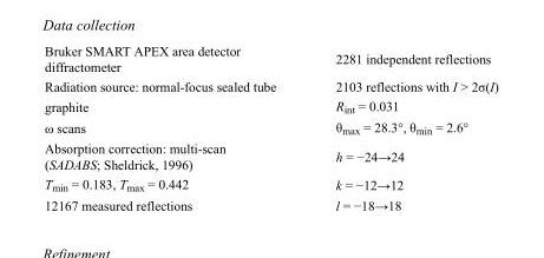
<table><tbody><tr><td>Bruker SMART APEX area detector diffractometer</td><td>2281 independent reflections</td></tr><tr><td>Radiation source: normal-focus sealed tube</td><td>2103 reflections with I &gt; 2σ(I)</td></tr><tr><td>graphite</td><td>R<sub>int</sub> = 0.031</td></tr><tr><td>ω scans</td><td>θ<sub>max</sub> = 28.3°, θ<sub>min</sub> = 2.6°</td></tr><tr><td>Absorption correction: multi-scan (SADABS; Sheldrick, 1996)</td><td>h = −24→24</td></tr><tr><td>T<sub>min</sub> = 0.183, T<sub>max</sub> = 0.442</td><td>k = −12→12</td></tr><tr><td>12167 measured reflections</td><td>l = −18→18</td></tr></tbody></table>